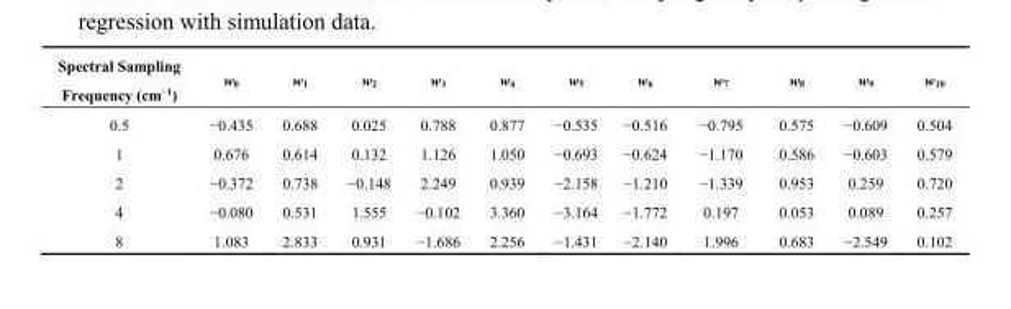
<table><thead><tr><td>Spectral Sampling Frequency (cm<sup>−1</sup>)</td><td>w<sub>0</sub></td><td>w<sub>1</sub></td><td>w<sub>2</sub></td><td>w<sub>3</sub></td><td>w<sub>4</sub></td><td>w<sub>5</sub></td><td>w<sub>6</sub></td><td>w<sub>7</sub></td><td>w<sub>8</sub></td><td>w<sub>9</sub></td><td>w<sub>10</sub></td></tr></thead><tbody><tr><td>0.5</td><td>−0.435</td><td>0.688</td><td>0.025</td><td>0.788</td><td>0.877</td><td>−0.535</td><td>−0.516</td><td>−0.795</td><td>0.575</td><td>−0.609</td><td>0.504</td></tr><tr><td>1</td><td>0.676</td><td>0.614</td><td>0.132</td><td>1.126</td><td>1.050</td><td>−0.693</td><td>−0.624</td><td>−1.170</td><td>0.586</td><td>−0.603</td><td>0.579</td></tr><tr><td>2</td><td>−0.372</td><td>0.738</td><td>−0.148</td><td>2.249</td><td>0.939</td><td>−2.158</td><td>−1.210</td><td>−1.339</td><td>0.953</td><td>0.259</td><td>0.720</td></tr><tr><td>4</td><td>−0.080</td><td>0.531</td><td>1.555</td><td>−0.102</td><td>3.360</td><td>−3.164</td><td>−1.772</td><td>0.197</td><td>0.053</td><td>0.089</td><td>0.257</td></tr><tr><td>8</td><td>1.083</td><td>2.833</td><td>0.931</td><td>−1.686</td><td>2.256</td><td>−1.431</td><td>−2.140</td><td>1.996</td><td>0.683</td><td>−2.549</td><td>0.102</td></tr></tbody></table>